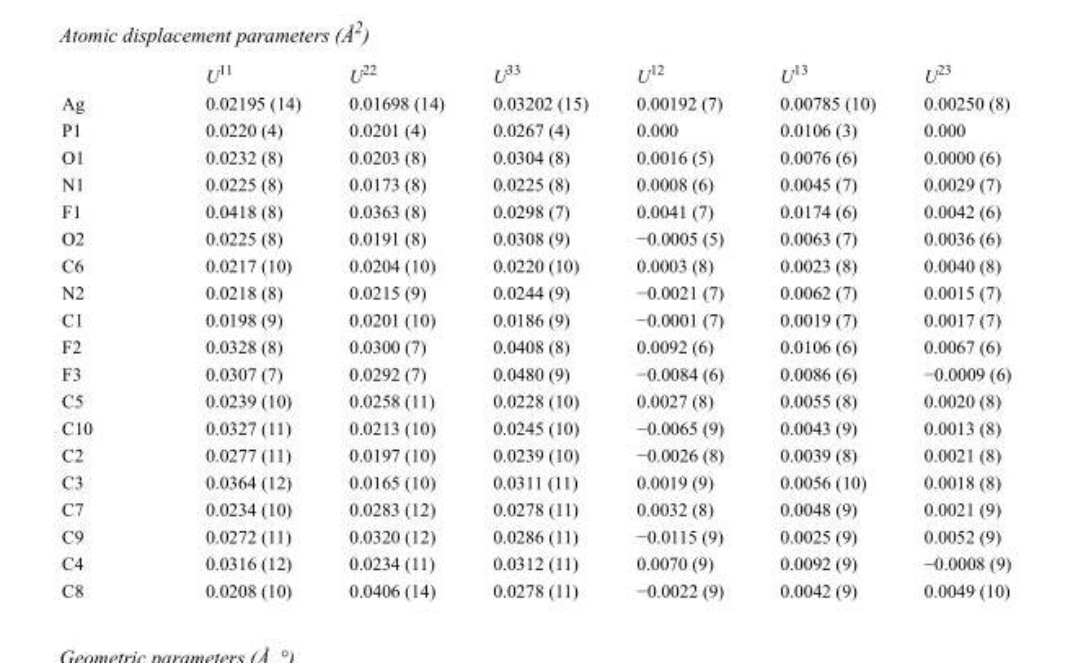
<table><thead><tr><td></td><td>U<sup>11</sup></td><td>U<sup>22</sup></td><td>U<sup>33</sup></td><td>U<sup>12</sup></td><td>U<sup>13</sup></td><td>U<sup>23</sup></td></tr></thead><tbody><tr><td>Ag</td><td>0.02195 (14)</td><td>0.01698 (14)</td><td>0.03202 (15)</td><td>0.00192 (7)</td><td>0.00785 (10)</td><td>0.00250 (8)</td></tr><tr><td>P1</td><td>0.0220 (4)</td><td>0.0201 (4)</td><td>0.0267 (4)</td><td>0.000</td><td>0.0106 (3)</td><td>0.000</td></tr><tr><td>O1</td><td>0.0232 (8)</td><td>0.0203 (8)</td><td>0.0304 (8)</td><td>0.0016 (5)</td><td>0.0076 (6)</td><td>0.0000 (6)</td></tr><tr><td>N1</td><td>0.0225 (8)</td><td>0.0173 (8)</td><td>0.0225 (8)</td><td>0.0008 (6)</td><td>0.0045 (7)</td><td>0.0029 (7)</td></tr><tr><td>F1</td><td>0.0418 (8)</td><td>0.0363 (8)</td><td>0.0298 (7)</td><td>0.0041 (7)</td><td>0.0174 (6)</td><td>0.0042 (6)</td></tr><tr><td>O2</td><td>0.0225 (8)</td><td>0.0191 (8)</td><td>0.0308 (9)</td><td>−0.0005 (5)</td><td>0.0063 (7)</td><td>0.0036 (6)</td></tr><tr><td>C6</td><td>0.0217 (10)</td><td>0.0204 (10)</td><td>0.0220 (10)</td><td>0.0003 (8)</td><td>0.0023 (8)</td><td>0.0040 (8)</td></tr><tr><td>N2</td><td>0.0218 (8)</td><td>0.0215 (9)</td><td>0.0244 (9)</td><td>−0.0021 (7)</td><td>0.0062 (7)</td><td>0.0015 (7)</td></tr><tr><td>C1</td><td>0.0198 (9)</td><td>0.0201 (10)</td><td>0.0186 (9)</td><td>−0.0001 (7)</td><td>0.0019 (7)</td><td>0.0017 (7)</td></tr><tr><td>F2</td><td>0.0328 (8)</td><td>0.0300 (7)</td><td>0.0408 (8)</td><td>0.0092 (6)</td><td>0.0106 (6)</td><td>0.0067 (6)</td></tr><tr><td>F3</td><td>0.0307 (7)</td><td>0.0292 (7)</td><td>0.0480 (9)</td><td>−0.0084 (6)</td><td>0.0086 (6)</td><td>−0.0009 (6)</td></tr><tr><td>C5</td><td>0.0239 (10)</td><td>0.0258 (11)</td><td>0.0228 (10)</td><td>0.0027 (8)</td><td>0.0055 (8)</td><td>0.0020 (8)</td></tr><tr><td>C10</td><td>0.0327 (11)</td><td>0.0213 (10)</td><td>0.0245 (10)</td><td>−0.0065 (9)</td><td>0.0043 (9)</td><td>0.0013 (8)</td></tr><tr><td>C2</td><td>0.0277 (11)</td><td>0.0197 (10)</td><td>0.0239 (10)</td><td>−0.0026 (8)</td><td>0.0039 (8)</td><td>0.0021 (8)</td></tr><tr><td>C3</td><td>0.0364 (12)</td><td>0.0165 (10)</td><td>0.0311 (11)</td><td>0.0019 (9)</td><td>0.0056 (10)</td><td>0.0018 (8)</td></tr><tr><td>C7</td><td>0.0234 (10)</td><td>0.0283 (12)</td><td>0.0278 (11)</td><td>0.0032 (8)</td><td>0.0048 (9)</td><td>0.0021 (9)</td></tr><tr><td>C9</td><td>0.0272 (11)</td><td>0.0320 (12)</td><td>0.0286 (11)</td><td>−0.0115 (9)</td><td>0.0025 (9)</td><td>0.0052 (9)</td></tr><tr><td>C4</td><td>0.0316 (12)</td><td>0.0234 (11)</td><td>0.0312 (11)</td><td>0.0070 (9)</td><td>0.0092 (9)</td><td>−0.0008 (9)</td></tr><tr><td>C8</td><td>0.0208 (10)</td><td>0.0406 (14)</td><td>0.0278 (11)</td><td>−0.0022 (9)</td><td>0.0042 (9)</td><td>0.0049 (10)</td></tr></tbody></table>